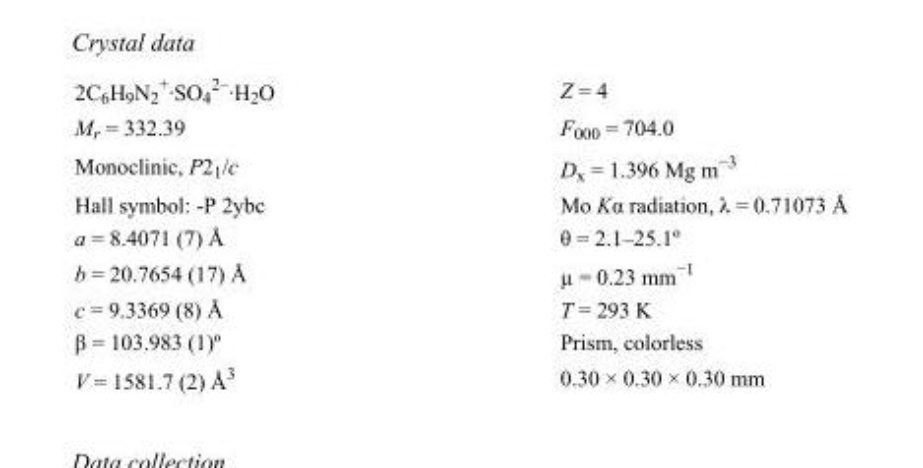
<table><tbody><tr><td>2C<sub>6</sub>H<sub>9</sub>N<sub>2</sub> <sup>+</sup>·SO<sub>4</sub> <sup>2–</sup>·H<sub>2</sub>O</td><td>Z = 4</td></tr><tr><td>M<sub>r</sub> = 332.39</td><td>F000 = 704.0</td></tr><tr><td>Monoclinic, P2<sub>1</sub>/c</td><td>D<sub>x</sub> = 1.396 Mg m<sup>−3</sup></td></tr><tr><td>Hall symbol: -P 2ybc</td><td>Mo Kα radiation, λ = 0.71073 Å</td></tr><tr><td>a = 8.4071 (7) Å</td><td>θ = 2.1–25.1º</td></tr><tr><td>b = 20.7654 (17) Å</td><td>µ = 0.23 mm<sup>−1</sup></td></tr><tr><td>c = 9.3369 (8) Å</td><td>T = 293 K</td></tr><tr><td>β = 103.983 (1)º</td><td>Prism, colorless</td></tr><tr><td>V = 1581.7 (2) Å<sup>3</sup></td><td>0.30 × 0.30 × 0.30 mm</td></tr></tbody></table>